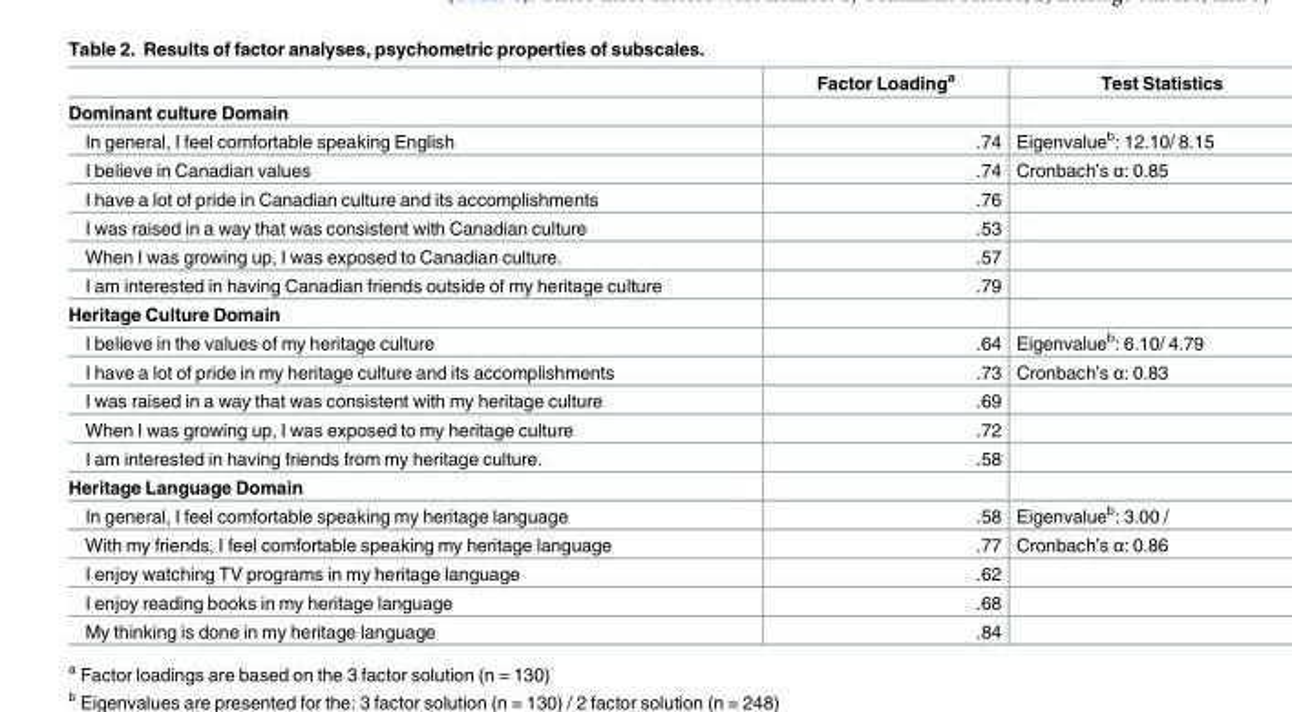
<table><thead><tr><td></td><td>Factor Loading<sup>a</sup></td><td>Test Statistics</td></tr></thead><tbody><tr><td colspan="3">Dominant culture Domain</td></tr><tr><td>In general, I feel comfortable speaking English</td><td>.74</td><td>Eigenvalue<sup>b</sup>: 12.10/ 8.15</td></tr><tr><td>I believe in Canadian values</td><td>.74</td><td>Cronbach’s α: 0.85</td></tr><tr><td>I have a lot of pride in Canadian culture and its accomplishments</td><td>.76</td><td></td></tr><tr><td>I was raised in a way that was consistent with Canadian culture</td><td>.53</td><td></td></tr><tr><td>When I was growing up, I was exposed to Canadian culture.</td><td>.57</td><td></td></tr><tr><td>I am interested in having Canadian friends outside of my heritage culture</td><td>.79</td><td></td></tr><tr><td colspan="3">Heritage Culture Domain</td></tr><tr><td>I believe in the values of my heritage culture</td><td>.64</td><td>Eigenvalue<sup>b</sup>: 6.10/ 4.79</td></tr><tr><td>I have a lot of pride in my heritage culture and its accomplishments</td><td>.73</td><td>Cronbach’s α: 0.83</td></tr><tr><td>I was raised in a way that was consistent with my heritage culture</td><td>.69</td><td></td></tr><tr><td>When I was growing up, I was exposed to my heritage culture</td><td>.72</td><td></td></tr><tr><td>I am interested in having friends from my heritage culture.</td><td>.58</td><td></td></tr><tr><td colspan="3">Heritage Language Domain</td></tr><tr><td>In general, I feel comfortable speaking my heritage language</td><td>.58</td><td>Eigenvalue<sup>b</sup>: 3.00 /</td></tr><tr><td>With my friends, I feel comfortable speaking my heritage language</td><td>.77</td><td>Cronbach’s α: 0.86</td></tr><tr><td>I enjoy watching TV programs in my heritage language</td><td>.62</td><td></td></tr><tr><td>I enjoy reading books in my heritage language</td><td>.68</td><td></td></tr><tr><td>My thinking is done in my heritage language</td><td>.84</td><td></td></tr></tbody></table>